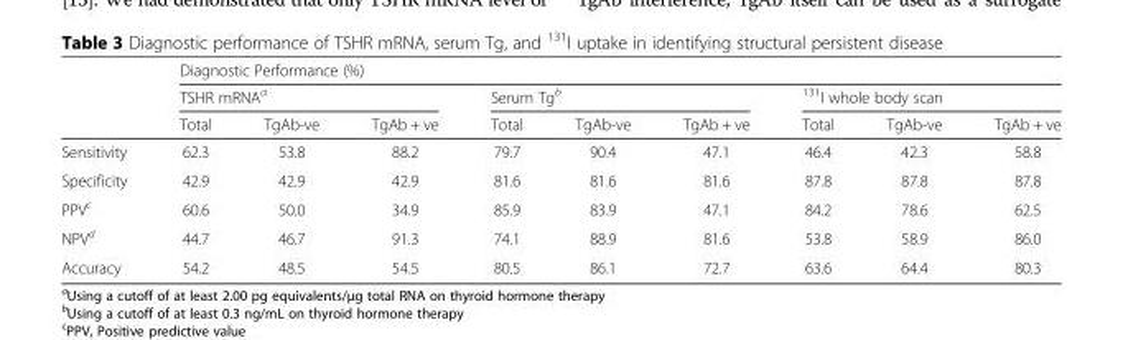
<table><thead><tr><td rowspan="3"></td><td colspan="9">Diagnostic Performance (%)</td></tr><tr><td colspan="3">TSHR mRNA<sup>a</sup></td><td colspan="3">Serum Tg<sup>b</sup></td><td colspan="3"><sup>131</sup>I whole body scan</td></tr><tr><td>Total</td><td>TgAb-ve</td><td>TgAb + ve</td><td>Total</td><td>TgAb-ve</td><td>TgAb + ve</td><td>Total</td><td>TgAb-ve</td><td>TgAb + ve</td></tr></thead><tbody><tr><td>Sensitivity</td><td>62.3</td><td>53.8</td><td>88.2</td><td>79.7</td><td>90.4</td><td>47.1</td><td>46.4</td><td>42.3</td><td>58.8</td></tr><tr><td>Specificity</td><td>42.9</td><td>42.9</td><td>42.9</td><td>81.6</td><td>81.6</td><td>81.6</td><td>87.8</td><td>87.8</td><td>87.8</td></tr><tr><td>PPV<sup>c</sup></td><td>60.6</td><td>50.0</td><td>34.9</td><td>85.9</td><td>83.9</td><td>47.1</td><td>84.2</td><td>78.6</td><td>62.5</td></tr><tr><td>NPV<sup>d</sup></td><td>44.7</td><td>46.7</td><td>91.3</td><td>74.1</td><td>88.9</td><td>81.6</td><td>53.8</td><td>58.9</td><td>86.0</td></tr><tr><td>Accuracy</td><td>54.2</td><td>48.5</td><td>54.5</td><td>80.5</td><td>86.1</td><td>72.7</td><td>63.6</td><td>64.4</td><td>80.3</td></tr></tbody></table>